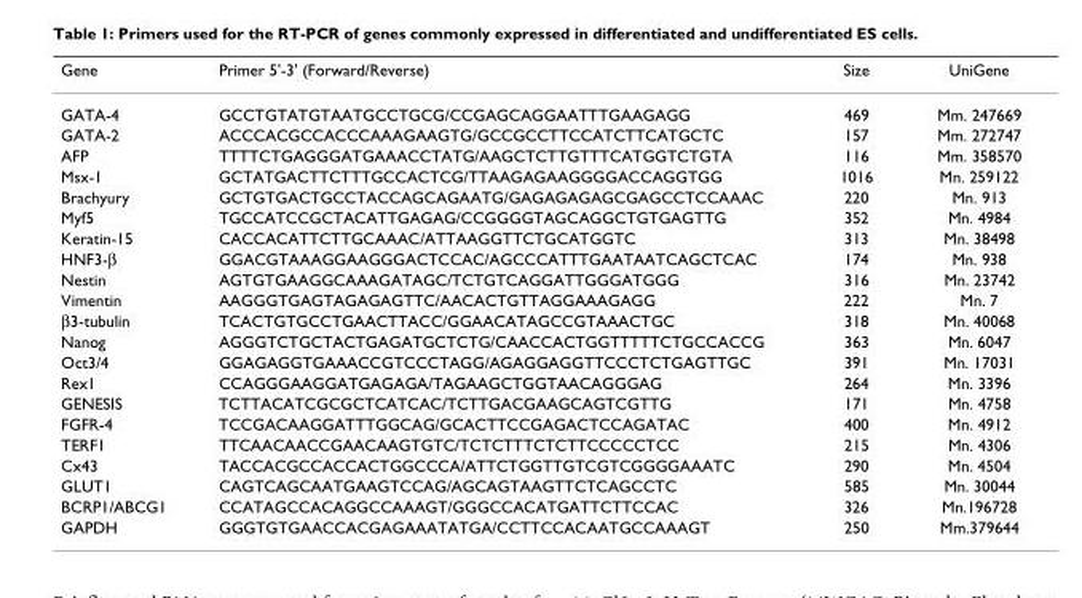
<table><thead><tr><td>Gene</td><td>Primer 5&#x27;-3&#x27; (Forward/Reverse)</td><td>Size</td><td>UniGene</td></tr></thead><tbody><tr><td>GATA-4</td><td>GCCTGTATGTAATGCCTGCG/CCGAGCAGGAATTTGAAGAGG</td><td>469</td><td>Mm. 247669</td></tr><tr><td>GATA-2</td><td>ACCCACGCCACCCAAAGAAGTG/GCCGCCTTCCATCTTCATGCTC</td><td>157</td><td>Mm. 272747</td></tr><tr><td>AFP</td><td>TTTTCTGAGGGATGAAACCTATG/AAGCTCTTGTTTCATGGTCTGTA</td><td>116</td><td>Mm. 358570</td></tr><tr><td>Msx-1</td><td>GCTATGACTTCTTTGCCACTCG/TTAAGAGAAGGGGACCAGGTGG</td><td>1016</td><td>Mn. 259122</td></tr><tr><td>Brachyury</td><td>GCTGTGACTGCCTACCAGCAGAATG/GAGAGAGAGCGAGCCTCCAAAC</td><td>220</td><td>Mn. 913</td></tr><tr><td>Myf5</td><td>TGCCATCCGCTACATTGAGAG/CCGGGGTAGCAGGCTGTGAGTTG</td><td>352</td><td>Mn. 4984</td></tr><tr><td>Keratin-15</td><td>CACCACATTCTTGCAAAC/ATTAAGGTTCTGCATGGTC</td><td>313</td><td>Mn. 38498</td></tr><tr><td>HNF3-β</td><td>GGACGTAAAGGAAGGGACTCCAC/AGCCCATTTGAATAATCAGCTCAC</td><td>174</td><td>Mn. 938</td></tr><tr><td>Nestin</td><td>AGTGTGAAGGCAAAGATAGC/TCTGTCAGGATTGGGATGGG</td><td>316</td><td>Mn. 23742</td></tr><tr><td>Vimentin</td><td>AAGGGTGAGTAGAGAGTTC/AACACTGTTAGGAAAGAGG</td><td>222</td><td>Mn. 7</td></tr><tr><td>β3-tubulin</td><td>TCACTGTGCCTGAACTTACC/GGAACATAGCCGTAAACTGC</td><td>318</td><td>Mn. 40068</td></tr><tr><td>Nanog</td><td>AGGGTCTGCTACTGAGATGCTCTG/CAACCACTGGTTTTTCTGCCACCG</td><td>363</td><td>Mn. 6047</td></tr><tr><td>Oct3/4</td><td>GGAGAGGTGAAACCGTCCCTAGG/AGAGGAGGTTCCCTCTGAGTTGC</td><td>391</td><td>Mn. 17031</td></tr><tr><td>Rex1</td><td>CCAGGGAAGGATGAGAGA/TAGAAGCTGGTAACAGGGAG</td><td>264</td><td>Mn. 3396</td></tr><tr><td>GENESIS</td><td>TCTTACATCGCGCTCATCAC/TCTTGACGAAGCAGTCGTTG</td><td>171</td><td>Mn. 4758</td></tr><tr><td>FGFR-4</td><td>TCCGACAAGGATTTGGCAG/GCACTTCCGAGACTCCAGATAC</td><td>400</td><td>Mn. 4912</td></tr><tr><td>TERF1</td><td>TTCAACAACCGAACAAGTGTC/TCTCTTTCTCTTCCCCCTCC</td><td>215</td><td>Mn. 4306</td></tr><tr><td>Cx43</td><td>TACCACGCCACCACTGGCCCA/ATTCTGGTTGTCGTCGGGGAAATC</td><td>290</td><td>Mn. 4504</td></tr><tr><td>GLUT1</td><td>CAGTCAGCAATGAAGTCCAG/AGCAGTAAGTTCTCAGCCTC</td><td>585</td><td>Mn. 30044</td></tr><tr><td>BCRP1/ABCG1</td><td>CCATAGCCACAGGCCAAAGT/GGGCCACATGATTCTTCCAC</td><td>326</td><td>Mn.196728</td></tr><tr><td>GAPDH</td><td>GGGTGTGAACCACGAGAAATATGA/CCTTCCACAATGCCAAAGT</td><td>250</td><td>Mm.379644</td></tr></tbody></table>